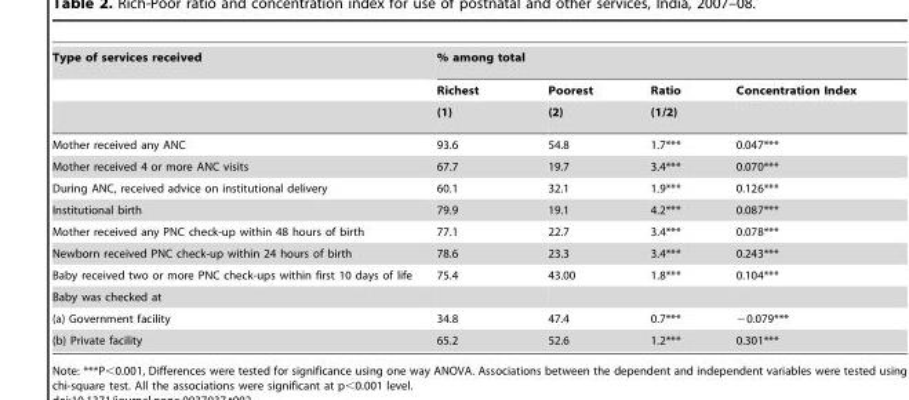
<table><tbody><tr><td rowspan="3">Type of services received</td><td colspan="4">% among total</td></tr><tr><td>Richest</td><td>Poorest</td><td>Ratio</td><td>Concentration Index</td></tr><tr><td>(1)</td><td>(2)</td><td>(1/2)</td><td></td></tr><tr><td>Mother received any ANC</td><td>93.6</td><td>54.8</td><td>1.7***</td><td>0.047***</td></tr><tr><td>Mother received 4 or more ANC visits</td><td>67.7</td><td>19.7</td><td>3.4***</td><td>0.070***</td></tr><tr><td>During ANC, received advice on institutional delivery</td><td>60.1</td><td>32.1</td><td>1.9***</td><td>0.126***</td></tr><tr><td>Institutional birth</td><td>79.9</td><td>19.1</td><td>4.2***</td><td>0.087***</td></tr><tr><td>Mother received any PNC check-up within 48 hours of birth</td><td>77.1</td><td>22.7</td><td>3.4***</td><td>0.078***</td></tr><tr><td>Newborn received PNC check-up within 24 hours of birth</td><td>78.6</td><td>23.3</td><td>3.4***</td><td>0.243***</td></tr><tr><td>Baby received two or more PNC check-ups within first 10 days of life</td><td>75.4</td><td>43.00</td><td>1.8***</td><td>0.104***</td></tr><tr><td colspan="5">Baby was checked at</td></tr><tr><td>(a) Government facility</td><td>34.8</td><td>47.4</td><td>0.7***</td><td>−0.079***</td></tr><tr><td>(b) Private facility</td><td>65.2</td><td>52.6</td><td>1.2***</td><td>0.301***</td></tr></tbody></table>